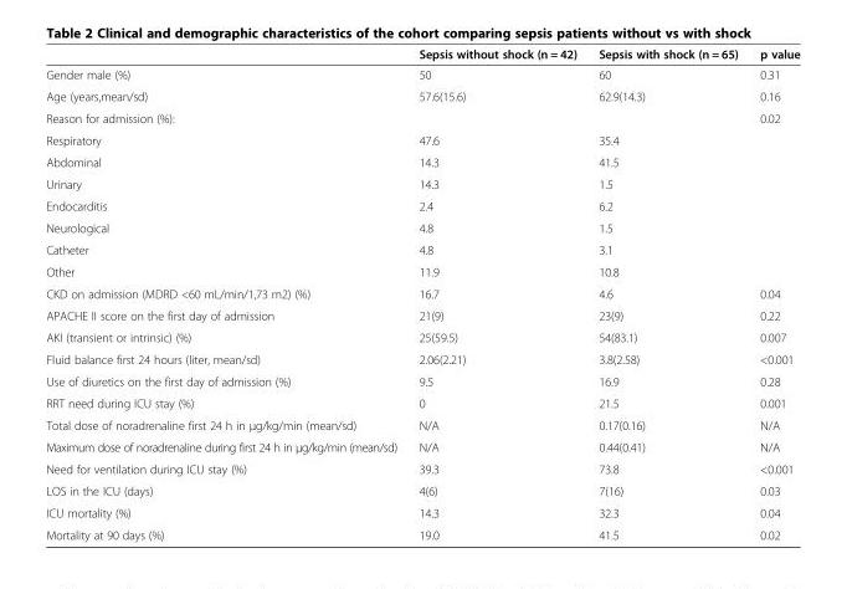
<table><thead><tr><td></td><td>Sepsis without shock (n = 42)</td><td>Sepsis with shock (n = 65)</td><td>p value</td></tr></thead><tbody><tr><td>Gender male (%)</td><td>50</td><td>60</td><td>0.31</td></tr><tr><td>Age (years,mean/sd)</td><td>57.6(15.6)</td><td>62.9(14.3)</td><td>0.16</td></tr><tr><td>Reason for admission (%):</td><td></td><td></td><td>0.02</td></tr><tr><td>Respiratory</td><td>47.6</td><td>35.4</td><td></td></tr><tr><td>Abdominal</td><td>14.3</td><td>41.5</td><td></td></tr><tr><td>Urinary</td><td>14.3</td><td>1.5</td><td></td></tr><tr><td>Endocarditis</td><td>2.4</td><td>6.2</td><td></td></tr><tr><td>Neurological</td><td>4.8</td><td>1.5</td><td></td></tr><tr><td>Catheter</td><td>4.8</td><td>3.1</td><td></td></tr><tr><td>Other</td><td>11.9</td><td>10.8</td><td></td></tr><tr><td>CKD on admission (MDRD &lt;60 mL/min/1,73 m2) (%)</td><td>16.7</td><td>4.6</td><td>0.04</td></tr><tr><td>APACHE II score on the first day of admission</td><td>21(9)</td><td>23(9)</td><td>0.22</td></tr><tr><td>AKI (transient or intrinsic) (%)</td><td>25(59.5)</td><td>54(83.1)</td><td>0.007</td></tr><tr><td>Fluid balance first 24 hours (liter, mean/sd)</td><td>2.06(2.21)</td><td>3.8(2.58)</td><td>&lt;0.001</td></tr><tr><td>Use of diuretics on the first day of admission (%)</td><td>9.5</td><td>16.9</td><td>0.28</td></tr><tr><td>RRT need during ICU stay (%)</td><td>0</td><td>21.5</td><td>0.001</td></tr><tr><td>Total dose of noradrenaline first 24 h in μg/kg/min (mean/sd)</td><td>N/A</td><td>0.17(0.16)</td><td>N/A</td></tr><tr><td>Maximum dose of noradrenaline during first 24 h in μg/kg/min (mean/sd)</td><td>N/A</td><td>0.44(0.41)</td><td>N/A</td></tr><tr><td>Need for ventilation during ICU stay (%)</td><td>39.3</td><td>73.8</td><td>&lt;0.001</td></tr><tr><td>LOS in the ICU (days)</td><td>4(6)</td><td>7(16)</td><td>0.03</td></tr><tr><td>ICU mortality (%)</td><td>14.3</td><td>32.3</td><td>0.04</td></tr><tr><td>Mortality at 90 days (%)</td><td>19.0</td><td>41.5</td><td>0.02</td></tr></tbody></table>